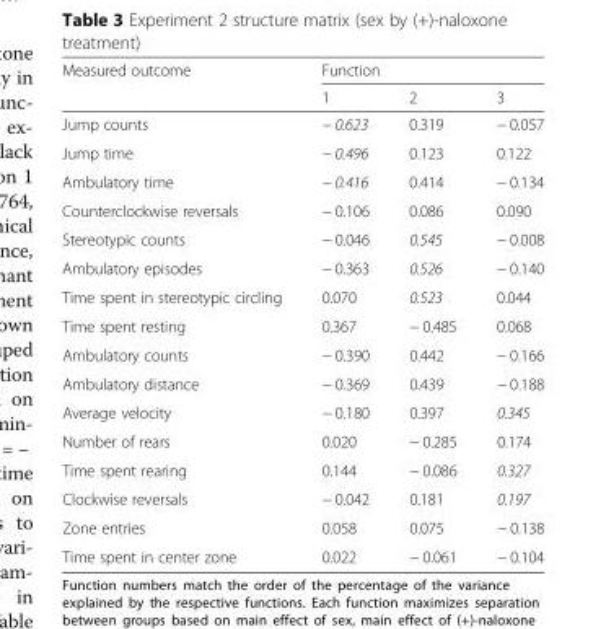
<table><thead><tr><td rowspan="2">Measured outcome</td><td colspan="3">Function</td></tr><tr><td>1</td><td>2</td><td>3</td></tr></thead><tbody><tr><td>Jump counts</td><td>− 0.623</td><td>0.319</td><td>− 0.057</td></tr><tr><td>Jump time</td><td>− 0.496</td><td>0.123</td><td>0.122</td></tr><tr><td>Ambulatory time</td><td>− 0.416</td><td>0.414</td><td>− 0.134</td></tr><tr><td>Counterclockwise reversals</td><td>− 0.106</td><td>0.086</td><td>0.090</td></tr><tr><td>Stereotypic counts</td><td>− 0.046</td><td>0.545</td><td>− 0.008</td></tr><tr><td>Ambulatory episodes</td><td>− 0.363</td><td>0.526</td><td>− 0.140</td></tr><tr><td>Time spent in stereotypic circling</td><td>0.070</td><td>0.523</td><td>0.044</td></tr><tr><td>Time spent resting</td><td>0.367</td><td>− 0.485</td><td>0.068</td></tr><tr><td>Ambulatory counts</td><td>− 0.390</td><td>0.442</td><td>− 0.166</td></tr><tr><td>Ambulatory distance</td><td>− 0.369</td><td>0.439</td><td>− 0.188</td></tr><tr><td>Average velocity</td><td>− 0.180</td><td>0.397</td><td>0.345</td></tr><tr><td>Number of rears</td><td>0.020</td><td>− 0.285</td><td>0.174</td></tr><tr><td>Time spent rearing</td><td>0.144</td><td>− 0.086</td><td>0.327</td></tr><tr><td>Clockwise reversals</td><td>− 0.042</td><td>0.181</td><td>0.197</td></tr><tr><td>Zone entries</td><td>0.058</td><td>0.075</td><td>− 0.138</td></tr><tr><td>Time spent in center zone</td><td>0.022</td><td>− 0.061</td><td>− 0.104</td></tr></tbody></table>